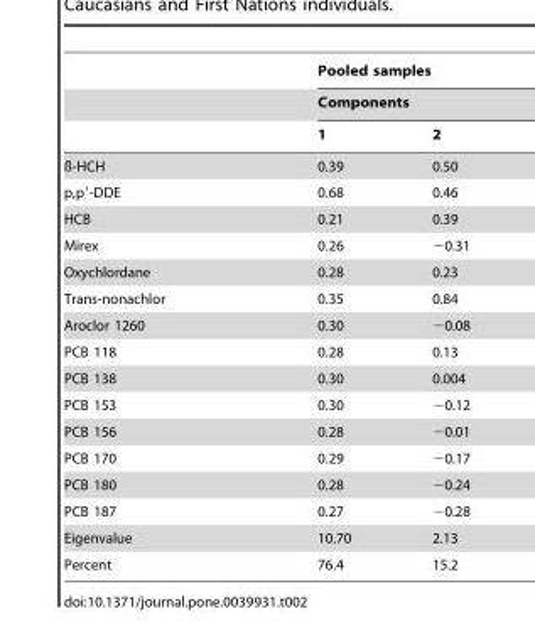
<table><thead><tr><td rowspan="3"></td><td rowspan="2" colspan="2">Pooled samples Components</td></tr><tr></tr><tr><td>1</td><td>2</td></tr></thead><tbody><tr><td>ß-HCH</td><td>0.39</td><td>0.50</td></tr><tr><td>p,p′-DDE</td><td>0.68</td><td>0.46</td></tr><tr><td>HCB</td><td>0.21</td><td>0.39</td></tr><tr><td>Mirex</td><td>0.26</td><td>−0.31</td></tr><tr><td>Oxychlordane</td><td>0.28</td><td>0.23</td></tr><tr><td>Trans-nonachlor</td><td>0.35</td><td>0.84</td></tr><tr><td>Aroclor 1260</td><td>0.30</td><td>−0.08</td></tr><tr><td>PCB 118</td><td>0.28</td><td>0.13</td></tr><tr><td>PCB 138</td><td>0.30</td><td>0.004</td></tr><tr><td>PCB 153</td><td>0.30</td><td>−0.12</td></tr><tr><td>PCB 156</td><td>0.28</td><td>−0.01</td></tr><tr><td>PCB 170</td><td>0.29</td><td>−0.17</td></tr><tr><td>PCB 180</td><td>0.28</td><td>−0.24</td></tr><tr><td>PCB 187</td><td>0.27</td><td>−0.28</td></tr><tr><td>Eigenvalue</td><td>10.70</td><td>2.13</td></tr><tr><td>Percent</td><td>76.4</td><td>15.2</td></tr></tbody></table>